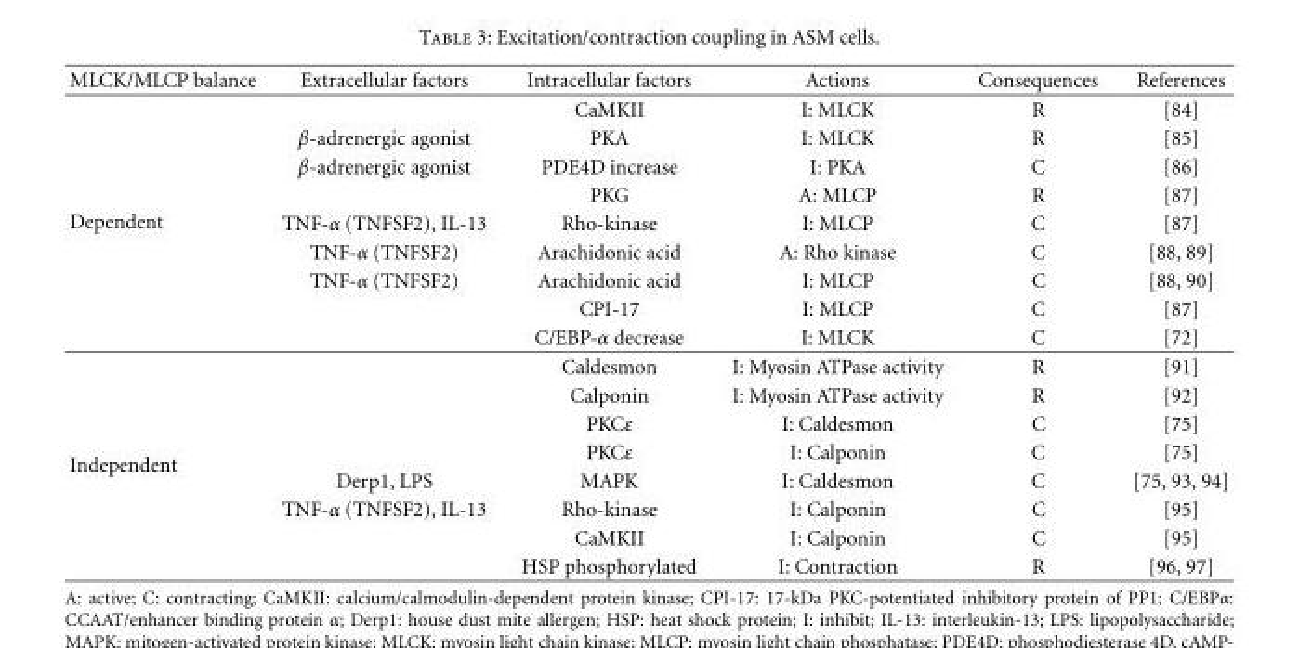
<table><thead><tr><td>MLCK/MLCP balance</td><td>Extracellular factors</td><td>Intracellular factors</td><td>Actions</td><td>Consequences</td><td>References</td></tr></thead><tbody><tr><td rowspan="9">Dependent</td><td></td><td>CaMKII</td><td>I: MLCK</td><td>R</td><td>[84]</td></tr><tr><td>β-adrenergic agonist</td><td>PKA</td><td>I: MLCK</td><td>R</td><td>[85]</td></tr><tr><td>β-adrenergic agonist</td><td>PDE4D increase</td><td>I: PKA</td><td>C</td><td>[86]</td></tr><tr><td></td><td>PKG</td><td>A: MLCP</td><td>R</td><td>[87]</td></tr><tr><td>TNF-α (TNFSF2), IL-13</td><td>Rho-kinase</td><td>I: MLCP</td><td>C</td><td>[87]</td></tr><tr><td>TNF-α (TNFSF2)</td><td>Arachidonic acid</td><td>A: Rho kinase</td><td>C</td><td>[88, 89]</td></tr><tr><td>TNF-α (TNFSF2)</td><td>Arachidonic acid</td><td>I: MLCP</td><td>C</td><td>[88, 90]</td></tr><tr><td></td><td>CPI-17</td><td>I: MLCP</td><td>C</td><td>[87]</td></tr><tr><td></td><td>C/EBP-α decrease</td><td>I: MLCK</td><td>C</td><td>[72]</td></tr><tr><td rowspan="8">Independent</td><td></td><td>Caldesmon</td><td>I: Myosin ATPase activity</td><td>R</td><td>[91]</td></tr><tr><td></td><td>Calponin</td><td>I: Myosin ATPase activity</td><td>R</td><td>[92]</td></tr><tr><td></td><td>PKCε</td><td>I: Caldesmon</td><td>C</td><td>[75]</td></tr><tr><td></td><td>PKCε</td><td>I: Calponin</td><td>C</td><td>[75]</td></tr><tr><td>Derp1, LPS</td><td>MAPK</td><td>I: Caldesmon</td><td>C</td><td>[75, 93, 94]</td></tr><tr><td>TNF-α (TNFSF2), IL-13</td><td>Rho-kinase</td><td>I: Calponin</td><td>C</td><td>[95]</td></tr><tr><td></td><td>CaMKII</td><td>I: Calponin</td><td>C</td><td>[95]</td></tr><tr><td></td><td>HSP phosphorylated</td><td>I: Contraction</td><td>R</td><td>[96, 97]</td></tr></tbody></table>